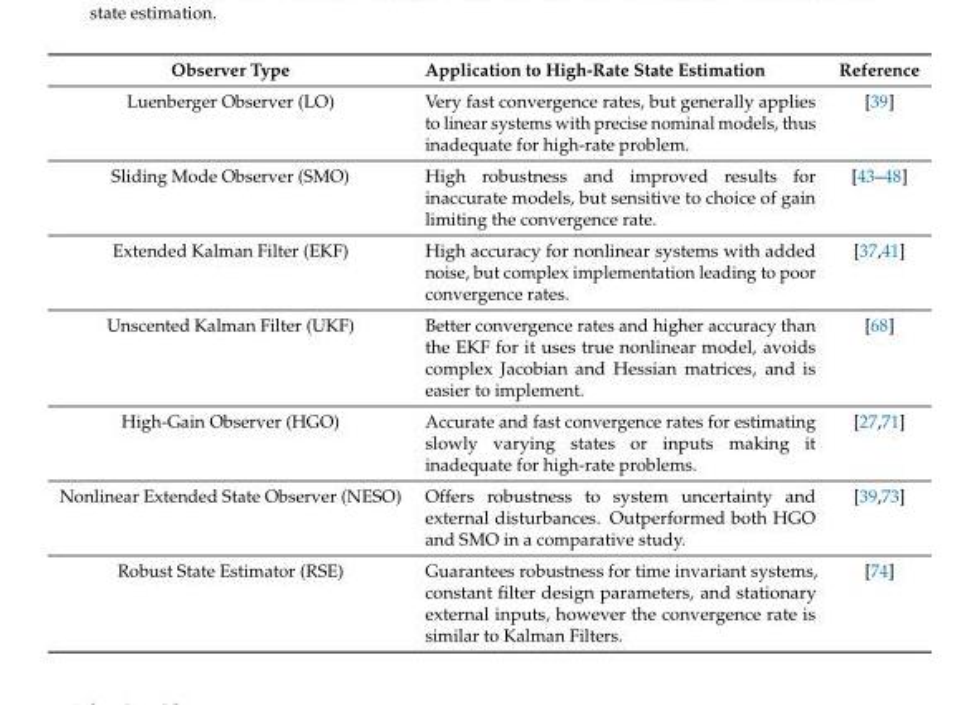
<table><thead><tr><td>Observer Type</td><td>Application to High-Rate State Estimation</td><td>Reference</td></tr></thead><tbody><tr><td>Luenberger Observer (LO)</td><td>Very fast convergence rates, but generally applies to linear systems with precise nominal models, thus inadequate for high-rate problem.</td><td>[39]</td></tr><tr><td>Sliding Mode Observer (SMO)</td><td>High robustness and improved results for inaccurate models, but sensitive to choice of gain limiting the convergence rate.</td><td>[43–48]</td></tr><tr><td>Extended Kalman Filter (EKF)</td><td>High accuracy for nonlinear systems with added noise, but complex implementation leading to poor convergence rates.</td><td>[37,41]</td></tr><tr><td>Unscented Kalman Filter (UKF)</td><td>Better convergence rates and higher accuracy than the EKF for it uses true nonlinear model, avoids complex Jacobian and Hessian matrices, and is easier to implement.</td><td>[68]</td></tr><tr><td>High-Gain Observer (HGO)</td><td>Accurate and fast convergence rates for estimating slowly varying states or inputs making it inadequate for high-rate problems.</td><td>[27,71]</td></tr><tr><td>Nonlinear Extended State Observer (NESO)</td><td>Offers robustness to system uncertainty and external disturbances. Outperformed both HGO and SMO in a comparative study.</td><td>[39,73]</td></tr><tr><td>Robust State Estimator (RSE)</td><td>Guarantees robustness for time invariant systems, constant filter design parameters, and stationary external inputs, however the convergence rate is similar to Kalman Filters.</td><td>[74]</td></tr></tbody></table>